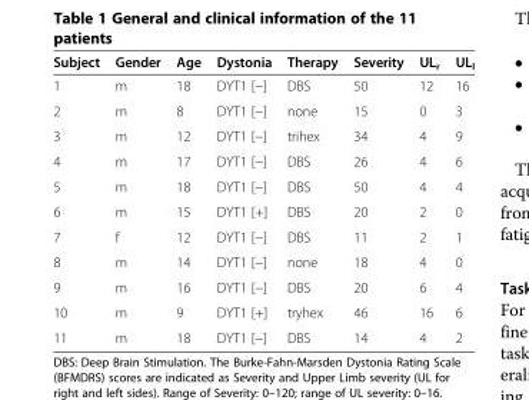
<table><thead><tr><td>Subject</td><td>Gender</td><td>Age</td><td>Dystonia</td><td>Therapy</td><td>Severity</td><td>UL<sub>r</sub></td><td>UL<sub>l</sub></td></tr></thead><tbody><tr><td>1</td><td>m</td><td>18</td><td>DYT1 [−]</td><td>DBS</td><td>50</td><td>12</td><td>16</td></tr><tr><td>2</td><td>m</td><td>8</td><td>DYT1 [−]</td><td>none</td><td>15</td><td>0</td><td>3</td></tr><tr><td>3</td><td>m</td><td>12</td><td>DYT1 [−]</td><td>trihex</td><td>34</td><td>4</td><td>9</td></tr><tr><td>4</td><td>m</td><td>17</td><td>DYT1 [−]</td><td>DBS</td><td>26</td><td>4</td><td>6</td></tr><tr><td>5</td><td>m</td><td>18</td><td>DYT1 [−]</td><td>DBS</td><td>50</td><td>4</td><td>4</td></tr><tr><td>6</td><td>m</td><td>15</td><td>DYT1 [+]</td><td>DBS</td><td>20</td><td>2</td><td>0</td></tr><tr><td>7</td><td>f</td><td>12</td><td>DYT1 [−]</td><td>DBS</td><td>11</td><td>2</td><td>1</td></tr><tr><td>8</td><td>m</td><td>14</td><td>DYT1 [−]</td><td>none</td><td>18</td><td>4</td><td>0</td></tr><tr><td>9</td><td>m</td><td>16</td><td>DYT1 [−]</td><td>DBS</td><td>20</td><td>6</td><td>4</td></tr><tr><td>10</td><td>m</td><td>9</td><td>DYT1 [+]</td><td>tryhex</td><td>46</td><td>16</td><td>6</td></tr><tr><td>11</td><td>m</td><td>18</td><td>DYT1 [−]</td><td>DBS</td><td>14</td><td>4</td><td>2</td></tr></tbody></table>